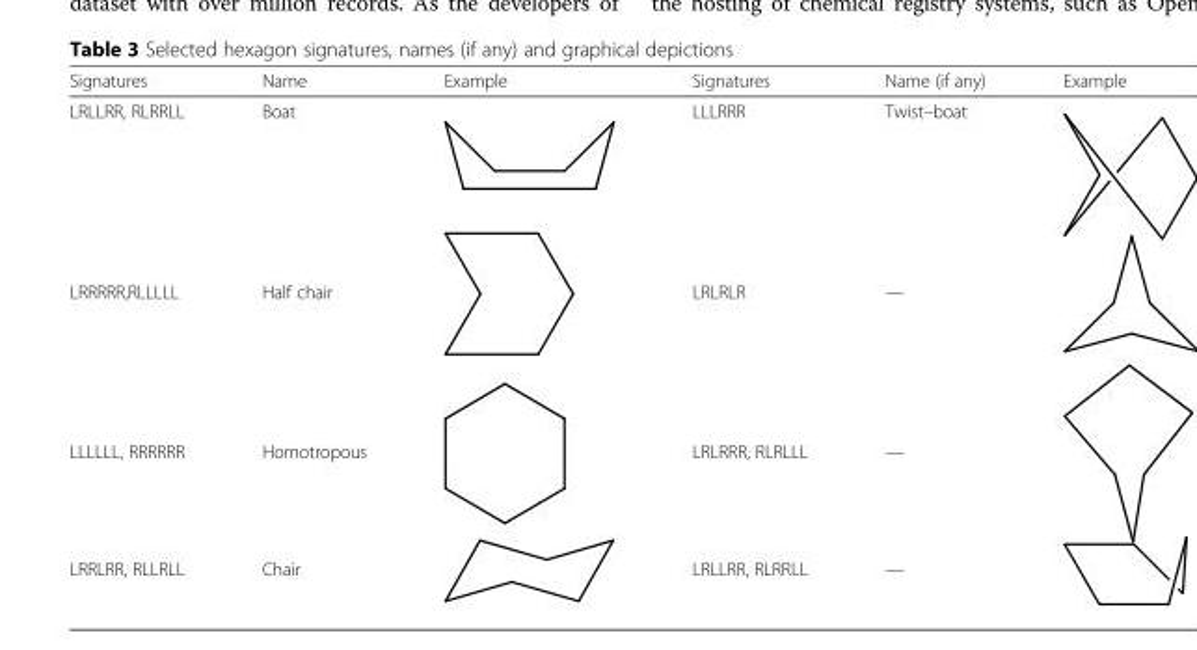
<table><thead><tr><td>Signatures</td><td>Name</td><td>Example</td><td>Signatures</td><td>Name (if any)</td><td>Example</td></tr></thead><tbody><tr><td>LRLLRR, RLRRLL</td><td>Boat</td><td></td><td>LLLRRR</td><td>Twist–boat</td><td></td></tr><tr><td>LRRRRR,RLLLLL</td><td>Half chair</td><td></td><td>LRLRLR</td><td>—</td><td></td></tr><tr><td>LLLLLL, RRRRRR</td><td>Homotropous</td><td></td><td>LRLRRR, RLRLLL</td><td>—</td><td></td></tr><tr><td>LRRLRR, RLLRLL</td><td>Chair</td><td></td><td>LRLLRR, RLRRLL</td><td>—</td><td></td></tr></tbody></table>